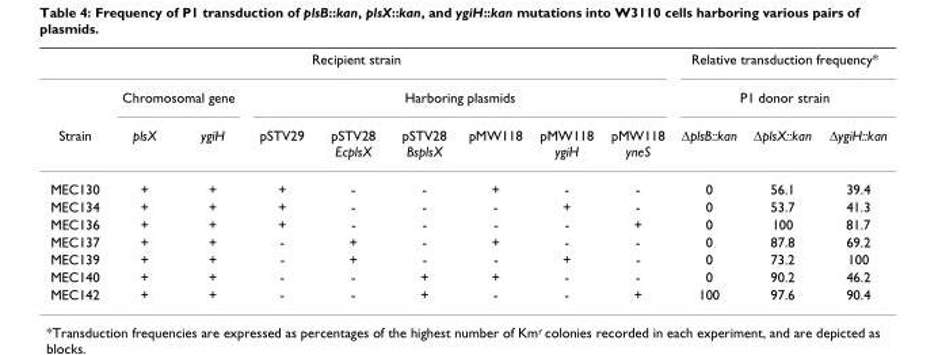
<table><thead><tr><td colspan="9">Recipient strain</td><td rowspan="2" colspan="3">Relative transduction frequency* P1 donor strain</td></tr><tr><td rowspan="2">Strain</td><td colspan="2">Chromosomal gene</td><td colspan="6">Harboring plasmids</td></tr><tr><td>plsX</td><td>ygiH</td><td>pSTV29</td><td>pSTV28 EcplsX</td><td>pSTV28 BsplsX</td><td>pMW118</td><td>pMW118 ygiH</td><td>pMW118 yneS</td><td>ΔplsB::kan</td><td>ΔplsX::kan</td><td>ΔygiH::kan</td></tr></thead><tbody><tr><td>MEC130</td><td>+</td><td>+</td><td>+</td><td>-</td><td>-</td><td>+</td><td>-</td><td>-</td><td>0</td><td>56.1</td><td>39.4</td></tr><tr><td>MEC134</td><td>+</td><td>+</td><td>+</td><td>-</td><td>-</td><td>-</td><td>+</td><td>-</td><td>0</td><td>53.7</td><td>41.3</td></tr><tr><td>MEC136</td><td>+</td><td>+</td><td>+</td><td>-</td><td>-</td><td>-</td><td>-</td><td>+</td><td>0</td><td>100</td><td>81.7</td></tr><tr><td>MEC137</td><td>+</td><td>+</td><td>-</td><td>+</td><td>-</td><td>+</td><td>-</td><td>-</td><td>0</td><td>87.8</td><td>69.2</td></tr><tr><td>MEC139</td><td>+</td><td>+</td><td>-</td><td>+</td><td>-</td><td>-</td><td>+</td><td>-</td><td>0</td><td>73.2</td><td>100</td></tr><tr><td>MEC140</td><td>+</td><td>+</td><td>-</td><td>-</td><td>+</td><td>+</td><td>-</td><td>-</td><td>0</td><td>90.2</td><td>46.2</td></tr><tr><td>MEC142</td><td>+</td><td>+</td><td>-</td><td>-</td><td>+</td><td>-</td><td>-</td><td>+</td><td>100</td><td>97.6</td><td>90.4</td></tr></tbody></table>